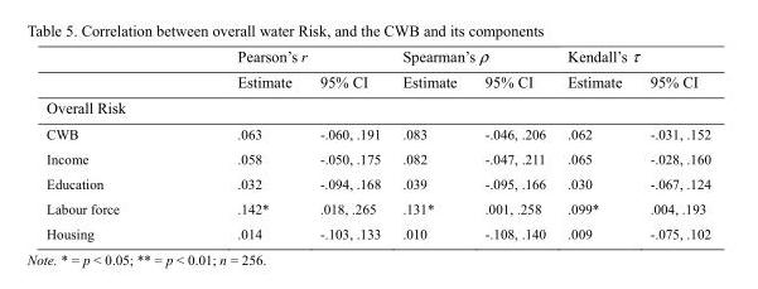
<table><thead><tr><td rowspan="2"></td><td colspan="2">Pearson’s r</td><td colspan="2">Spearman’s ρ</td><td colspan="2">Kendall’s τ</td></tr><tr><td>Estimate</td><td>95% CI</td><td>Estimate</td><td>95% CI</td><td>Estimate</td><td>95% CI</td></tr></thead><tbody><tr><td colspan="7">Overall Risk</td></tr><tr><td>CWB</td><td>.063</td><td>-.060, .191</td><td>.083</td><td>-.046, .206</td><td>.062</td><td>-.031, .152</td></tr><tr><td>Income</td><td>.058</td><td>-.050, .175</td><td>.082</td><td>-.047, .211</td><td>.065</td><td>-.028, .160</td></tr><tr><td>Education</td><td>.032</td><td>-.094, .168</td><td>.039</td><td>-.095, .166</td><td>.030</td><td>-.067, .124</td></tr><tr><td>Labour force</td><td>.142*</td><td>.018, .265</td><td>.131*</td><td>.001, .258</td><td>.099*</td><td>.004, .193</td></tr><tr><td>Housing</td><td>.014</td><td>-.103, .133</td><td>.010</td><td>-.108, .140</td><td>.009</td><td>-.075, .102</td></tr></tbody></table>